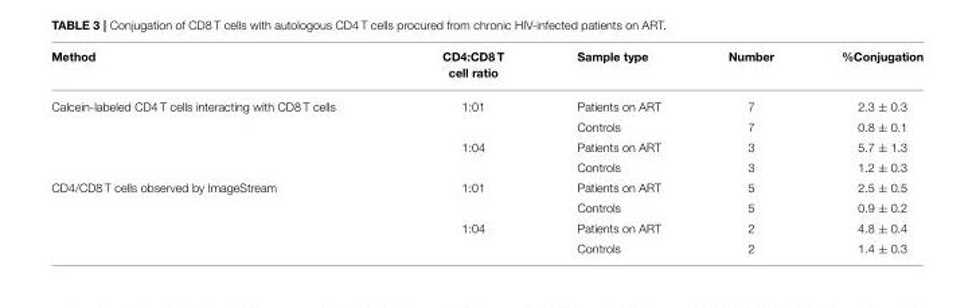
<table><thead><tr><td>Method</td><td>CD4:CD8 T cell ratio</td><td>Sample type</td><td>Number</td><td>%Conjugation</td></tr></thead><tbody><tr><td rowspan="4">Calcein-labeled CD4 T cells interacting with CD8 T cells</td><td>1:01</td><td>Patients on ART</td><td>7</td><td>2.3 ± 0.3</td></tr><tr><td></td><td>Controls</td><td>7</td><td>0.8 ± 0.1</td></tr><tr><td>1:04</td><td>Patients on ART</td><td>3</td><td>5.7 ± 1.3</td></tr><tr><td></td><td>Controls</td><td>3</td><td>1.2 ± 0.3</td></tr><tr><td rowspan="4">CD4/CD8 T cells observed by ImageStream</td><td>1:01</td><td>Patients on ART</td><td>5</td><td>2.5 ± 0.5</td></tr><tr><td></td><td>Controls</td><td>5</td><td>0.9 ± 0.2</td></tr><tr><td>1:04</td><td>Patients on ART</td><td>2</td><td>4.8 ± 0.4</td></tr><tr><td></td><td>Controls</td><td>2</td><td>1.4 ± 0.3</td></tr></tbody></table>